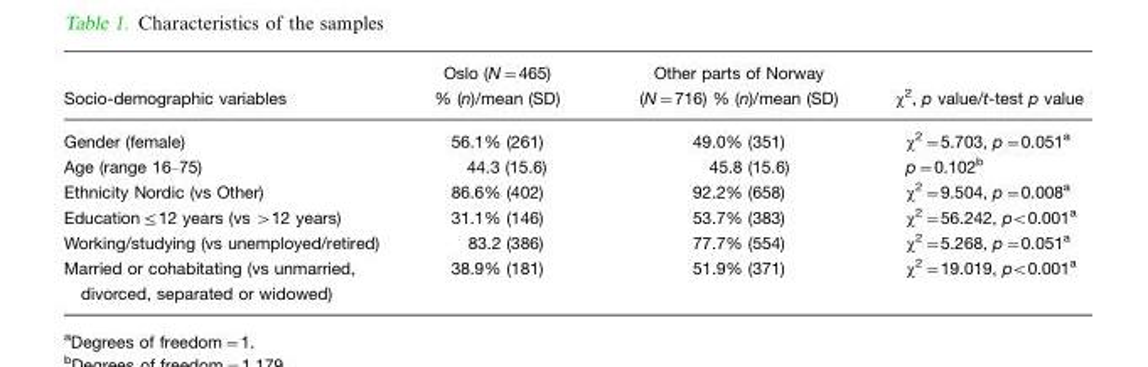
<table><thead><tr><td>Socio-demographic variables</td><td>Oslo (N=465) % (n)/mean (SD)</td><td>Other parts of Norway (N=716) % (n)/mean (SD)</td><td>χ<sup>2</sup>, p value/t-test p value</td></tr></thead><tbody><tr><td>Gender (female)</td><td>56.1% (261)</td><td>49.0% (351)</td><td>χ<sup>2</sup>=5.703, p=0.051<sup>a</sup></td></tr><tr><td>Age (range 16–75)</td><td>44.3 (15.6)</td><td>45.8 (15.6)</td><td>p=0.102<sup>b</sup></td></tr><tr><td>Ethnicity Nordic (vs Other)</td><td>86.6% (402)</td><td>92.2% (658)</td><td>χ<sup>2</sup>=9.504, p=0.008<sup>a</sup></td></tr><tr><td>Education≤12 years (vs &gt;12 years)</td><td>31.1% (146)</td><td>53.7% (383)</td><td>χ<sup>2</sup>=56.242, p&lt;0.001<sup>a</sup></td></tr><tr><td>Working/studying (vs unemployed/retired)</td><td>83.2 (386)</td><td>77.7% (554)</td><td>χ<sup>2</sup>=5.268, p=0.051<sup>a</sup></td></tr><tr><td>Married or cohabitating (vs unmarried, divorced, separated or widowed)</td><td>38.9% (181)</td><td>51.9% (371)</td><td>χ<sup>2</sup>=19.019, p&lt;0.001<sup>a</sup></td></tr></tbody></table>